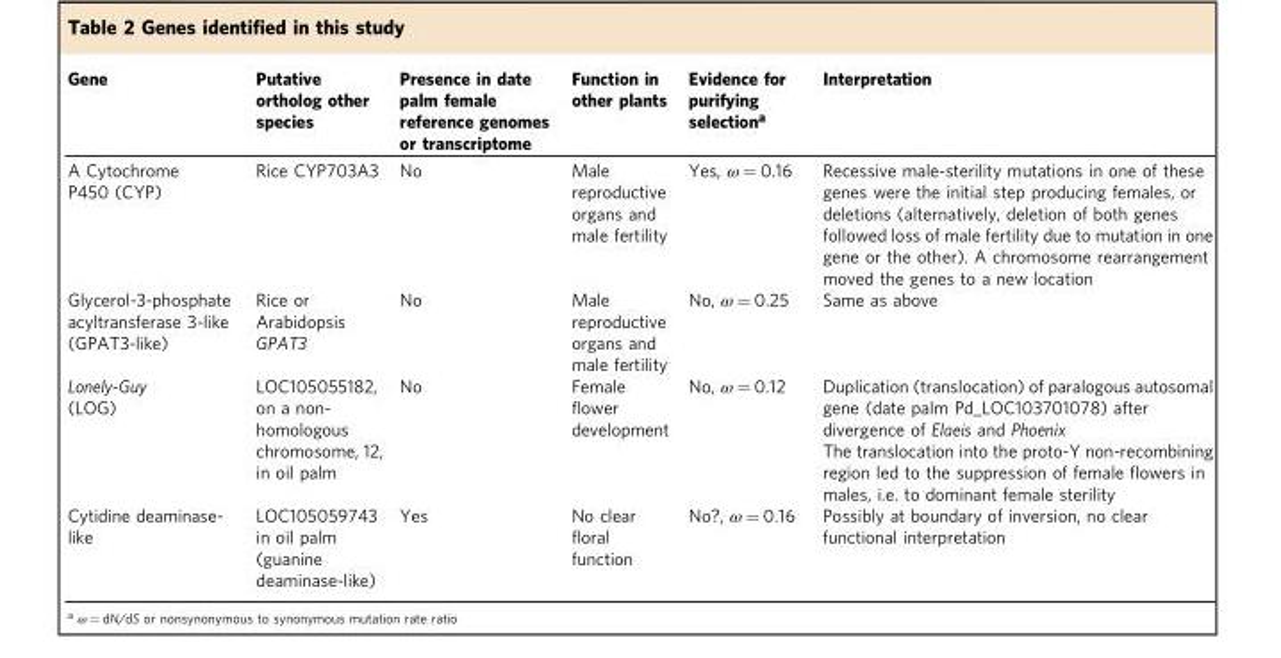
<table><thead><tr><td>Gene</td><td>Putative ortholog other species</td><td>Presence in date palm female reference genomes or transcriptome</td><td>Function in other plants</td><td>Evidence for purifying selection<sup>a</sup></td><td>Interpretation</td></tr></thead><tbody><tr><td>A Cytochrome P450 (CYP)</td><td>Rice CYP703A3</td><td>No</td><td>Male reproductive organs and male fertility</td><td>Yes, ω = 0.16</td><td>Recessive male-sterility mutations in one of these genes were the initial step producing females, or deletions (alternatively, deletion of both genes followed loss of male fertility due to mutation in one gene or the other). A chromosome rearrangement moved the genes to a new location</td></tr><tr><td>Glycerol-3-phosphate acyltransferase 3-like (GPAT3-like)</td><td>Rice or Arabidopsis GPAT3</td><td>No</td><td>Male reproductive organs and male fertility</td><td>No, ω = 0.25</td><td>Same as above</td></tr><tr><td>Lonely-Guy (LOG)</td><td>LOC105055182, on a non- homologous chromosome, 12, in oil palm</td><td>No</td><td>Female flower development</td><td>No, ω = 0.12</td><td>Duplication (translocation) of paralogous autosomal gene (date palm Pd_LOC103701078) after divergence of Elaeis and Phoenix The translocation into the proto-Y non-recombining region led to the suppression of female flowers in males, i.e. to dominant female sterility</td></tr><tr><td>Cytidine deaminase- like</td><td>LOC105059743 in oil palm (guanine deaminase-like)</td><td>Yes</td><td>No clear floral function</td><td>No?, ω = 0.16</td><td>Possibly at boundary of inversion, no clear functional interpretation</td></tr></tbody></table>